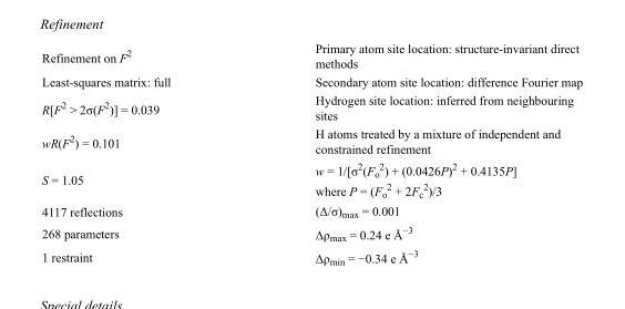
<table><tbody><tr><td>Refinement on F<sup>2</sup></td><td>Primary atom site location: structure-invariant direct methods</td></tr><tr><td>Least-squares matrix: full</td><td>Secondary atom site location: difference Fourier map</td></tr><tr><td>R[F<sup>2</sup> &gt; 2σ(F<sup>2</sup>)] = 0.039</td><td>Hydrogen site location: inferred from neighbouring sites</td></tr><tr><td>wR(F<sup>2</sup>) = 0.101</td><td>H atoms treated by a mixture of independent and constrained refinement</td></tr><tr><td>S = 1.05</td><td>w = 1/[σ<sup>2</sup>(F<sub>o</sub> <sup>2</sup>) + (0.0426P)<sup>2</sup> + 0.4135P] where P = (F<sub>o</sub> <sup>2</sup> + 2F<sub>c</sub> <sup>2</sup>)/3</td></tr><tr><td>4117 reflections</td><td>(Δ/σ)<sub>max</sub> = 0.001</td></tr><tr><td>268 parameters</td><td>Δρ<sub>max</sub> = 0.24 e Å<sup>−3</sup></td></tr><tr><td>1 restraint</td><td>Δρ<sub>min</sub> = −0.34 e Å<sup>−3</sup></td></tr></tbody></table>